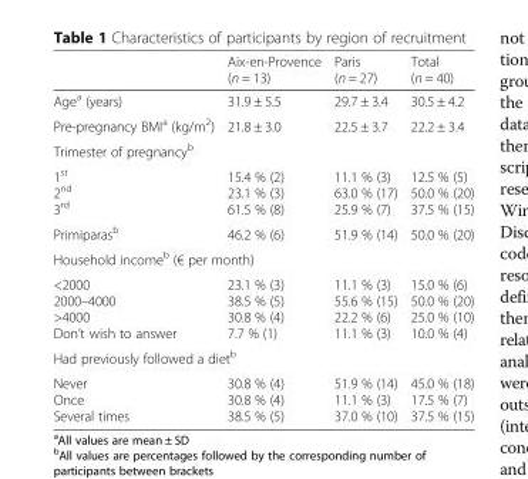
<table><thead><tr><td></td><td>Aix-en-Provence (n = 13)</td><td>Paris (n = 27)</td><td>Total (n = 40)</td></tr></thead><tbody><tr><td>Age<sup>a</sup> (years)</td><td>31.9 ± 5.5</td><td>29.7 ± 3.4</td><td>30.5 ± 4.2</td></tr><tr><td>Pre-pregnancy BMI<sup>a</sup> (kg/m<sup>2</sup>)</td><td>21.8 ± 3.0</td><td>22.5 ± 3.7</td><td>22.2 ± 3.4</td></tr><tr><td colspan="4">Trimester of pregnancy<sup>b</sup></td></tr><tr><td>1<sup>st</sup> 2<sup>nd</sup> 3<sup>rd</sup></td><td>15.4 % (2) 23.1 % (3) 61.5 % (8)</td><td>11.1 % (3) 63.0 % (17) 25.9 % (7)</td><td>12.5 % (5) 50.0 % (20) 37.5 % (15)</td></tr><tr><td>Primiparas<sup>b</sup></td><td>46.2 % (6)</td><td>51.9 % (14)</td><td>50.0 % (20)</td></tr><tr><td colspan="4">Household income<sup>b</sup> (€ per month)</td></tr><tr><td>&lt;2000 2000–4000 &gt;4000 Don’t wish to answer</td><td>23.1 % (3) 38.5 % (5) 30.8 % (4) 7.7 % (1)</td><td>11.1 % (3) 55.6 % (15) 22.2 % (6) 11.1 % (3)</td><td>15.0 % (6) 50.0 % (20) 25.0 % (10) 10.0 % (4)</td></tr><tr><td colspan="4">Had previously followed a diet<sup>b</sup></td></tr><tr><td>Never Once Several times</td><td>30.8 % (4) 30.8 % (4) 38.5 % (5)</td><td>51.9 % (14) 11.1 % (3) 37.0 % (10)</td><td>45.0 % (18) 17.5 % (7) 37.5 % (15)</td></tr></tbody></table>